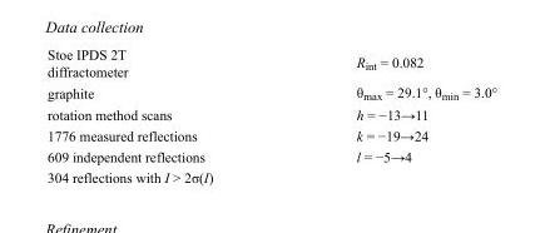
<table><tbody><tr><td>Stoe IPDS 2T diffractometer</td><td>R<sub>int</sub> = 0.082</td></tr><tr><td>graphite</td><td>θ<sub>max</sub> = 29.1°, θ<sub>min</sub> = 3.0°</td></tr><tr><td>rotation method scans</td><td>h = −13→11</td></tr><tr><td>1776 measured reflections</td><td>k = −19→24</td></tr><tr><td>609 independent reflections</td><td>l = −5→4</td></tr><tr><td>304 reflections with I &gt; 2σ(I)</td><td></td></tr></tbody></table>